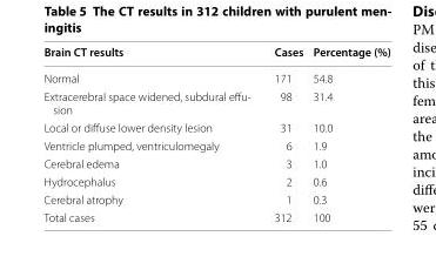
<table><thead><tr><td>Brain CT results</td><td>Cases</td><td>Percentage (%)</td></tr></thead><tbody><tr><td>Normal</td><td>171</td><td>54.8</td></tr><tr><td>Extracerebral space widened, subdural effu- sion</td><td>98</td><td>31.4</td></tr><tr><td>Local or diffuse lower density lesion</td><td>31</td><td>10.0</td></tr><tr><td>Ventricle plumped, ventriculomegaly</td><td>6</td><td>1.9</td></tr><tr><td>Cerebral edema</td><td>3</td><td>1.0</td></tr><tr><td>Hydrocephalus</td><td>2</td><td>0.6</td></tr><tr><td>Cerebral atrophy</td><td>1</td><td>0.3</td></tr><tr><td>Total cases</td><td>312</td><td>100</td></tr></tbody></table>